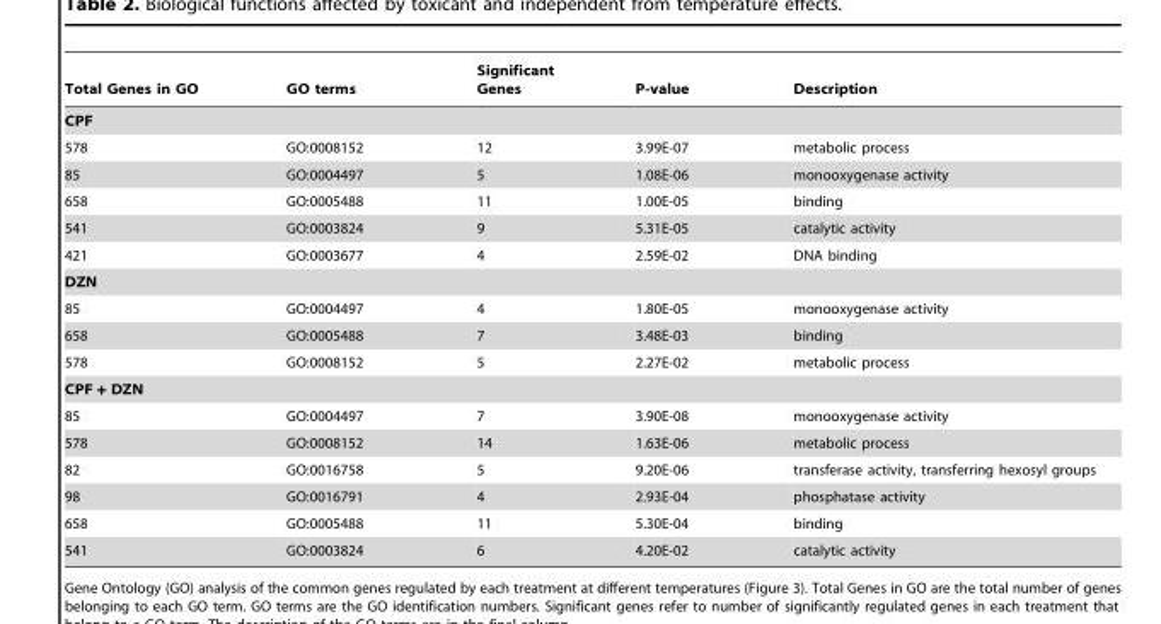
<table><thead><tr><td>Total Genes in GO</td><td>GO terms</td><td>Significant Genes</td><td>P-value</td><td>Description</td></tr></thead><tbody><tr><td colspan="5">CPF</td></tr><tr><td>578</td><td>GO:0008152</td><td>12</td><td>3.99E-07</td><td>metabolic process</td></tr><tr><td>85</td><td>GO:0004497</td><td>5</td><td>1.08E-06</td><td>monooxygenase activity</td></tr><tr><td>658</td><td>GO:0005488</td><td>11</td><td>1.00E-05</td><td>binding</td></tr><tr><td>541</td><td>GO:0003824</td><td>9</td><td>5.31E-05</td><td>catalytic activity</td></tr><tr><td>421</td><td>GO:0003677</td><td>4</td><td>2.59E-02</td><td>DNA binding</td></tr><tr><td colspan="5">DZN</td></tr><tr><td>85</td><td>GO:0004497</td><td>4</td><td>1.80E-05</td><td>monooxygenase activity</td></tr><tr><td>658</td><td>GO:0005488</td><td>7</td><td>3.48E-03</td><td>binding</td></tr><tr><td>578</td><td>GO:0008152</td><td>5</td><td>2.27E-02</td><td>metabolic process</td></tr><tr><td colspan="5">CPF + DZN</td></tr><tr><td>85</td><td>GO:0004497</td><td>7</td><td>3.90E-08</td><td>monooxygenase activity</td></tr><tr><td>578</td><td>GO:0008152</td><td>14</td><td>1.63E-06</td><td>metabolic process</td></tr><tr><td>82</td><td>GO:0016758</td><td>5</td><td>9.20E-06</td><td>transferase activity, transferring hexosyl groups</td></tr><tr><td>98</td><td>GO:0016791</td><td>4</td><td>2.93E-04</td><td>phosphatase activity</td></tr><tr><td>658</td><td>GO:0005488</td><td>11</td><td>5.30E-04</td><td>binding</td></tr><tr><td>541</td><td>GO:0003824</td><td>6</td><td>4.20E-02</td><td>catalytic activity</td></tr></tbody></table>